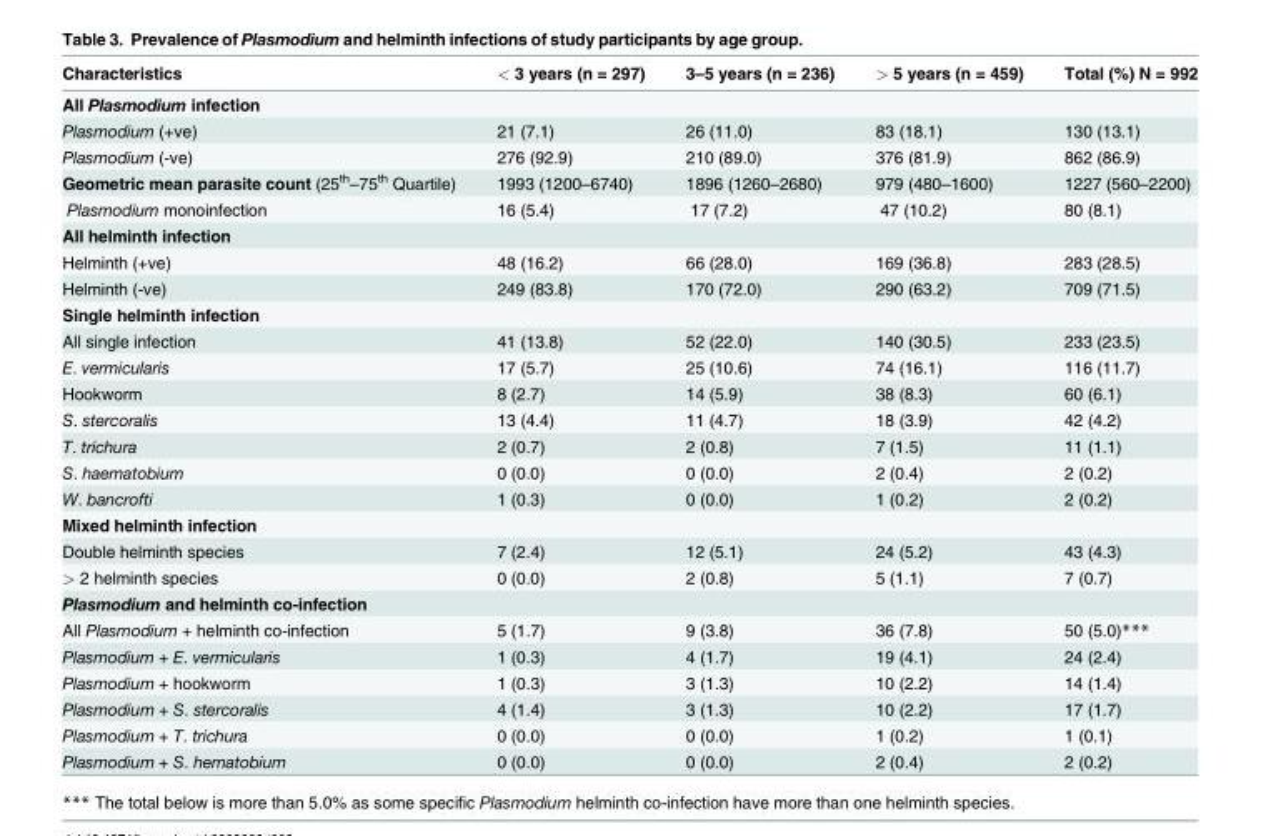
<table><thead><tr><td>Characteristics</td><td>&lt; 3 years (n = 297)</td><td>3–5 years (n = 236)</td><td>&gt; 5 years (n = 459)</td><td>Total (%) N = 992</td></tr></thead><tbody><tr><td colspan="5">All Plasmodium infection</td></tr><tr><td>Plasmodium (+ve)</td><td>21 (7.1)</td><td>26 (11.0)</td><td>83 (18.1)</td><td>130 (13.1)</td></tr><tr><td>Plasmodium (-ve)</td><td>276 (92.9)</td><td>210 (89.0)</td><td>376 (81.9)</td><td>862 (86.9)</td></tr><tr><td>Geometric mean parasite count (25<sup>th</sup>–75<sup>th</sup> Quartile)</td><td>1993 (1200–6740)</td><td>1896 (1260–2680)</td><td>979 (480–1600)</td><td>1227 (560–2200)</td></tr><tr><td>Plasmodium monoinfection</td><td>16 (5.4)</td><td>17 (7.2)</td><td>47 (10.2)</td><td>80 (8.1)</td></tr><tr><td colspan="5">All helminth infection</td></tr><tr><td>Helminth (+ve)</td><td>48 (16.2)</td><td>66 (28.0)</td><td>169 (36.8)</td><td>283 (28.5)</td></tr><tr><td>Helminth (-ve)</td><td>249 (83.8)</td><td>170 (72.0)</td><td>290 (63.2)</td><td>709 (71.5)</td></tr><tr><td colspan="5">Single helminth infection</td></tr><tr><td>All single infection</td><td>41 (13.8)</td><td>52 (22.0)</td><td>140 (30.5)</td><td>233 (23.5)</td></tr><tr><td>E. vermicularis</td><td>17 (5.7)</td><td>25 (10.6)</td><td>74 (16.1)</td><td>116 (11.7)</td></tr><tr><td>Hookworm</td><td>8 (2.7)</td><td>14 (5.9)</td><td>38 (8.3)</td><td>60 (6.1)</td></tr><tr><td>S. stercoralis</td><td>13 (4.4)</td><td>11 (4.7)</td><td>18 (3.9)</td><td>42 (4.2)</td></tr><tr><td>T. trichura</td><td>2 (0.7)</td><td>2 (0.8)</td><td>7 (1.5)</td><td>11 (1.1)</td></tr><tr><td>S. haematobium</td><td>0 (0.0)</td><td>0 (0.0)</td><td>2 (0.4)</td><td>2 (0.2)</td></tr><tr><td>W. bancrofti</td><td>1 (0.3)</td><td>0 (0.0)</td><td>1 (0.2)</td><td>2 (0.2)</td></tr><tr><td colspan="5">Mixed helminth infection</td></tr><tr><td>Double helminth species</td><td>7 (2.4)</td><td>12 (5.1)</td><td>24 (5.2)</td><td>43 (4.3)</td></tr><tr><td>&gt; 2 helminth species</td><td>0 (0.0)</td><td>2 (0.8)</td><td>5 (1.1)</td><td>7 (0.7)</td></tr><tr><td colspan="5">Plasmodium and helminth co-infection</td></tr><tr><td>All Plasmodium + helminth co-infection</td><td>5 (1.7)</td><td>9 (3.8)</td><td>36 (7.8)</td><td>50 (5.0)***</td></tr><tr><td>Plasmodium + E. vermicularis</td><td>1 (0.3)</td><td>4 (1.7)</td><td>19 (4.1)</td><td>24 (2.4)</td></tr><tr><td>Plasmodium + hookworm</td><td>1 (0.3)</td><td>3 (1.3)</td><td>10 (2.2)</td><td>14 (1.4)</td></tr><tr><td>Plasmodium + S. stercoralis</td><td>4 (1.4)</td><td>3 (1.3)</td><td>10 (2.2)</td><td>17 (1.7)</td></tr><tr><td>Plasmodium + T. trichura</td><td>0 (0.0)</td><td>0 (0.0)</td><td>1 (0.2)</td><td>1 (0.1)</td></tr><tr><td>Plasmodium + S. hematobium</td><td>0 (0.0)</td><td>0 (0.0)</td><td>2 (0.4)</td><td>2 (0.2)</td></tr></tbody></table>